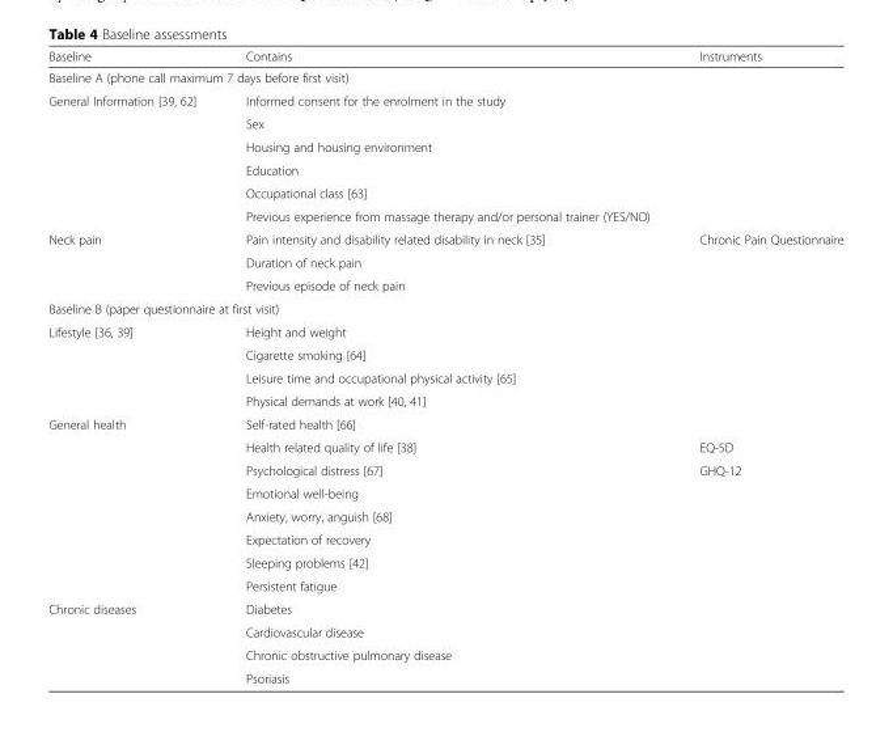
<table><thead><tr><td>Baseline</td><td>Contains</td><td>Instruments</td></tr></thead><tbody><tr><td colspan="3">Baseline A (phone call maximum 7 days before first visit)</td></tr><tr><td rowspan="6">General Information [39, 62]</td><td>Informed consent for the enrolment in the study</td><td></td></tr><tr><td>Sex</td><td></td></tr><tr><td>Housing and housing environment</td><td></td></tr><tr><td>Education</td><td></td></tr><tr><td>Occupational class [63]</td><td></td></tr><tr><td>Previous experience from massage therapy and/or personal trainer (YES/NO)</td><td></td></tr><tr><td rowspan="3">Neck pain</td><td>Pain intensity and disability related disability in neck [35]</td><td>Chronic Pain Questionnaire</td></tr><tr><td>Duration of neck pain</td><td></td></tr><tr><td>Previous episode of neck pain</td><td></td></tr><tr><td colspan="3">Baseline B (paper questionnaire at first visit)</td></tr><tr><td rowspan="4">Lifestyle [36, 39]</td><td>Height and weight</td><td></td></tr><tr><td>Cigarette smoking [64]</td><td></td></tr><tr><td>Leisure time and occupational physical activity [65]</td><td></td></tr><tr><td>Physical demands at work [40, 41]</td><td></td></tr><tr><td rowspan="8">General health</td><td>Self-rated health [66]</td><td></td></tr><tr><td>Health related quality of life [38]</td><td>EQ-5D</td></tr><tr><td>Psychological distress [67]</td><td>GHQ-12</td></tr><tr><td>Emotional well-being</td><td></td></tr><tr><td>Anxiety, worry, anguish [68]</td><td></td></tr><tr><td>Expectation of recovery</td><td></td></tr><tr><td>Sleeping problems [42]</td><td></td></tr><tr><td>Persistent fatigue</td><td></td></tr><tr><td rowspan="4">Chronic diseases</td><td>Diabetes</td><td></td></tr><tr><td>Cardiovascular disease</td><td></td></tr><tr><td colspan="2">Chronic obstructive pulmonary disease</td></tr><tr><td>Psoriasis</td><td></td></tr></tbody></table>